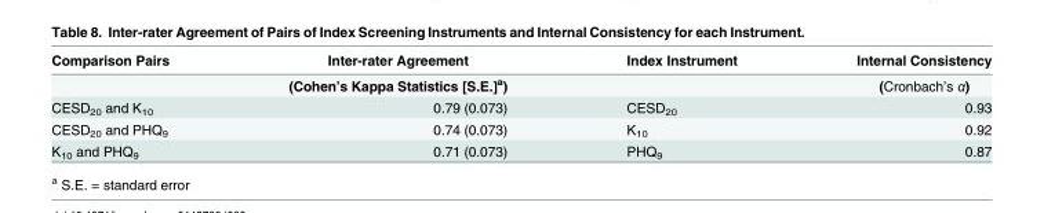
<table><thead><tr><td>Comparison Pairs</td><td>Inter-rater Agreement</td><td>Index Instrument</td><td>Internal Consistency</td></tr></thead><tbody><tr><td></td><td>(Cohen’s Kappa Statistics [S.E.]<sup>a</sup>)</td><td></td><td>(Cronbach’s α)</td></tr><tr><td>CESD<sub>20</sub> and K<sub>10</sub></td><td>0.79 (0.073)</td><td>CESD<sub>20</sub></td><td>0.93</td></tr><tr><td>CESD<sub>20</sub> and PHQ<sub>9</sub></td><td>0.74 (0.073)</td><td>K<sub>10</sub></td><td>0.92</td></tr><tr><td>K<sub>10</sub> and PHQ<sub>9</sub></td><td>0.71 (0.073)</td><td>PHQ<sub>9</sub></td><td>0.87</td></tr></tbody></table>